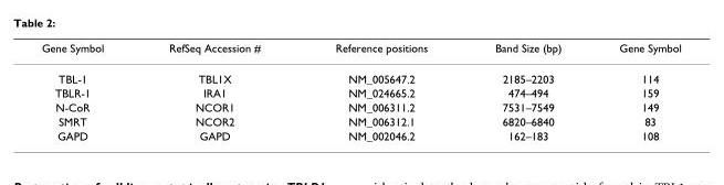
<table><thead><tr><td>Gene Symbol</td><td>RefSeq Accession #</td><td>Reference positions</td><td>Band Size (bp)</td><td>Gene Symbol</td></tr></thead><tbody><tr><td>TBL-1</td><td>TBL1X</td><td>NM_005647.2</td><td>2185–2203</td><td>114</td></tr><tr><td>TBLR-1</td><td>IRA1</td><td>NM_024665.2</td><td>474–494</td><td>159</td></tr><tr><td>N-CoR</td><td>NCOR1</td><td>NM_006311.2</td><td>7531–7549</td><td>149</td></tr><tr><td>SMRT</td><td>NCOR2</td><td>NM_006312.1</td><td>6820–6840</td><td>83</td></tr><tr><td>GAPD</td><td>GAPD</td><td>NM_002046.2</td><td>162–183</td><td>108</td></tr></tbody></table>